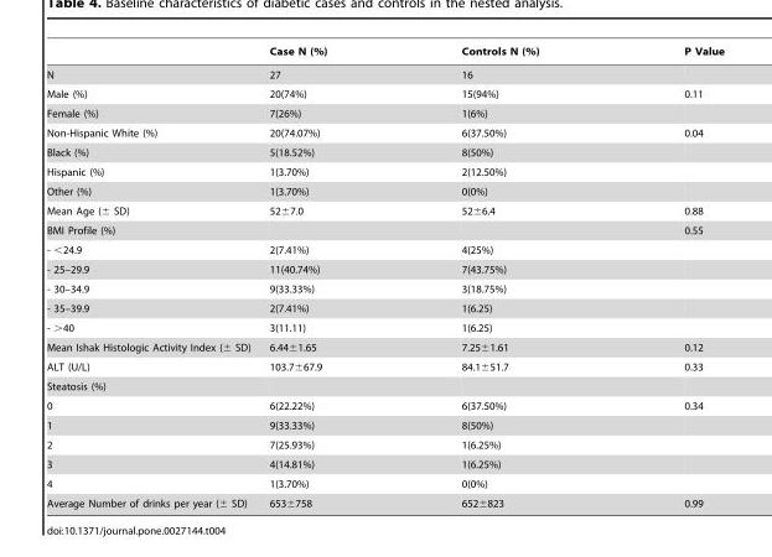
<table><thead><tr><td></td><td>Case N (%)</td><td>Controls N (%)</td><td>P Value</td></tr></thead><tbody><tr><td>N</td><td>27</td><td>16</td><td></td></tr><tr><td>Male (%)</td><td>20(74%)</td><td>15(94%)</td><td>0.11</td></tr><tr><td>Female (%)</td><td>7(26%)</td><td>1(6%)</td><td></td></tr><tr><td>Non-Hispanic White (%)</td><td>20(74.07%)</td><td>6(37.50%)</td><td>0.04</td></tr><tr><td>Black (%)</td><td>5(18.52%)</td><td>8(50%)</td><td></td></tr><tr><td>Hispanic (%)</td><td>1(3.70%)</td><td>2(12.50%)</td><td></td></tr><tr><td>Other (%)</td><td>1(3.70%)</td><td>0(0%)</td><td></td></tr><tr><td>Mean Age (± SD)</td><td>52±7.0</td><td>52±6.4</td><td>0.88</td></tr><tr><td>BMI Profile (%)</td><td></td><td></td><td>0.55</td></tr><tr><td>- &lt;24.9</td><td>2(7.41%)</td><td>4(25%)</td><td></td></tr><tr><td>- 25–29.9</td><td>11(40.74%)</td><td>7(43.75%)</td><td></td></tr><tr><td>- 30–34.9</td><td>9(33.33%)</td><td>3(18.75%)</td><td></td></tr><tr><td>- 35–39.9</td><td>2(7.41%)</td><td>1(6.25)</td><td></td></tr><tr><td>- &gt;40</td><td>3(11.11)</td><td>1(6.25)</td><td></td></tr><tr><td>Mean Ishak Histologic Activity Index (± SD)</td><td>6.44±1.65</td><td>7.25±1.61</td><td>0.12</td></tr><tr><td>ALT (U/L)</td><td>103.7±67.9</td><td>84.1±51.7</td><td>0.33</td></tr><tr><td colspan="4">Steatosis (%)</td></tr><tr><td>0</td><td>6(22.22%)</td><td>6(37.50%)</td><td>0.34</td></tr><tr><td>1</td><td>9(33.33%)</td><td>8(50%)</td><td></td></tr><tr><td>2</td><td>7(25.93%)</td><td>1(6.25%)</td><td></td></tr><tr><td>3</td><td>4(14.81%)</td><td>1(6.25%)</td><td></td></tr><tr><td>4</td><td>1(3.70%)</td><td>0(0%)</td><td></td></tr><tr><td>Average Number of drinks per year (± SD)</td><td>653±758</td><td>652±823</td><td>0.99</td></tr></tbody></table>